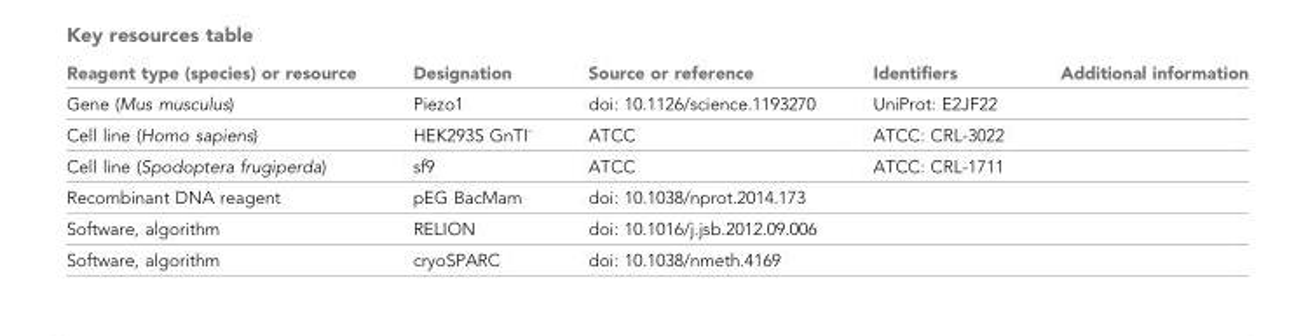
<table><thead><tr><td>Reagent type (species) or resource</td><td>Designation</td><td>Source or reference</td><td>Identifiers</td><td>Additional information</td></tr></thead><tbody><tr><td>Gene (Mus musculus)</td><td>Piezo1</td><td>doi: 10.1126/science.1193270</td><td>UniProt: E2JF22</td><td></td></tr><tr><td>Cell line (Homo sapiens)</td><td>HEK293S GnTI<sup>-</sup></td><td>ATCC</td><td>ATCC: CRL-3022</td><td></td></tr><tr><td>Cell line (Spodoptera frugiperda)</td><td>sf9</td><td>ATCC</td><td>ATCC: CRL-1711</td><td></td></tr><tr><td>Recombinant DNA reagent</td><td>pEG BacMam</td><td>doi: 10.1038/nprot.2014.173</td><td></td><td></td></tr><tr><td>Software, algorithm</td><td>RELION</td><td>doi: 10.1016/j.jsb.2012.09.006</td><td></td><td></td></tr><tr><td>Software, algorithm</td><td>cryoSPARC</td><td>doi: 10.1038/nmeth.4169</td><td></td><td></td></tr></tbody></table>